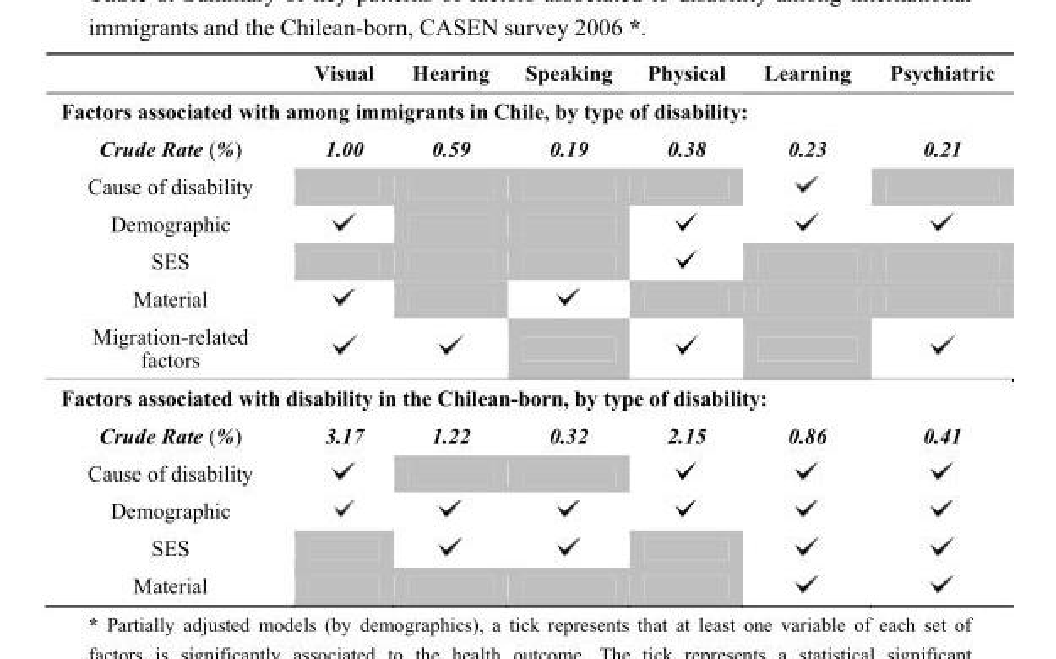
<table><thead><tr><td></td><td>Visual</td><td>Hearing</td><td>Speaking</td><td>Physical</td><td>Learning</td><td>Psychiatric</td></tr></thead><tbody><tr><td colspan="7">Factors associated with among immigrants in Chile, by type of disability:</td></tr><tr><td>Crude Rate (%)</td><td>1.00</td><td>0.59</td><td>0.19</td><td>0.38</td><td>0.23</td><td>0.21</td></tr><tr><td colspan="7">Cause of disability</td></tr><tr><td colspan="7">Demographic</td></tr><tr><td colspan="7">SES</td></tr><tr><td colspan="7">Material</td></tr><tr><td colspan="7">Migration-related factors</td></tr><tr><td colspan="7">Factors associated with disability in the Chilean-born, by type of disability:</td></tr><tr><td>Crude Rate (%)</td><td>3.17</td><td>1.22</td><td>0.32</td><td>2.15</td><td>0.86</td><td>0.41</td></tr><tr><td colspan="7">Cause of disability</td></tr><tr><td colspan="7">Demographic</td></tr><tr><td colspan="7">SES</td></tr><tr><td>Material</td><td></td><td></td><td></td><td></td><td></td><td></td></tr></tbody></table>